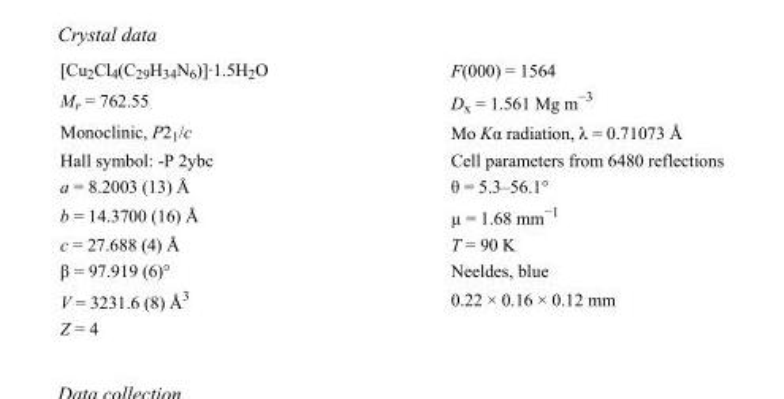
<table><tbody><tr><td>[Cu<sub>2</sub>Cl<sub>4</sub>(C<sub>29</sub>H<sub>34</sub>N<sub>6</sub>)]·1.5H<sub>2</sub>O</td><td>F(000) = 1564</td></tr><tr><td>M<sub>r</sub> = 762.55</td><td>D<sub>x</sub> = 1.561 Mg m<sup>−3</sup></td></tr><tr><td>Monoclinic, P2<sub>1</sub>/c</td><td>Mo Kα radiation, λ = 0.71073 Å</td></tr><tr><td>Hall symbol: -P 2ybc</td><td>Cell parameters from 6480 reflections</td></tr><tr><td>a = 8.2003 (13) Å</td><td>θ = 5.3–56.1°</td></tr><tr><td>b = 14.3700 (16) Å</td><td>µ = 1.68 mm<sup>−1</sup></td></tr><tr><td>c = 27.688 (4) Å</td><td>T = 90 K</td></tr><tr><td>β = 97.919 (6)°</td><td>Neeldes, blue</td></tr><tr><td>V = 3231.6 (8) Å<sup>3</sup></td><td>0.22 × 0.16 × 0.12 mm</td></tr><tr><td>Z = 4</td><td></td></tr></tbody></table>